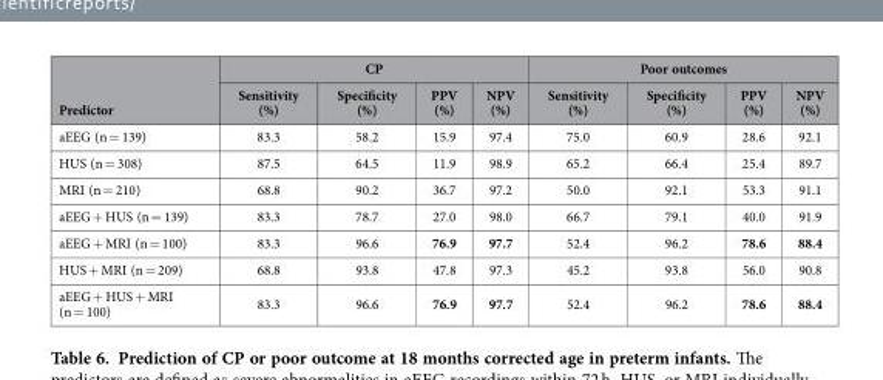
<table><thead><tr><td rowspan="2">Predictor</td><td colspan="4">CP</td><td colspan="4">Poor outcomes</td></tr><tr><td>Sensitivity (%)</td><td>Specificity (%)</td><td>PPV (%)</td><td>NPV (%)</td><td>Sensitivity (%)</td><td>Specificity (%)</td><td>PPV (%)</td><td>NPV (%)</td></tr></thead><tbody><tr><td>aEEG (n = 139)</td><td>83.3</td><td>58.2</td><td>15.9</td><td>97.4</td><td>75.0</td><td>60.9</td><td>28.6</td><td>92.1</td></tr><tr><td>HUS (n = 308)</td><td>87.5</td><td>64.5</td><td>11.9</td><td>98.9</td><td>65.2</td><td>66.4</td><td>25.4</td><td>89.7</td></tr><tr><td>MRI (n = 210)</td><td>68.8</td><td>90.2</td><td>36.7</td><td>97.2</td><td>50.0</td><td>92.1</td><td>53.3</td><td>91.1</td></tr><tr><td>aEEG + HUS (n = 139)</td><td>83.3</td><td>78.7</td><td>27.0</td><td>98.0</td><td>66.7</td><td>79.1</td><td>40.0</td><td>91.9</td></tr><tr><td>aEEG + MRI (n = 100)</td><td>83.3</td><td>96.6</td><td>76.9</td><td>97.7</td><td>52.4</td><td>96.2</td><td>78.6</td><td>88.4</td></tr><tr><td>HUS + MRI (n = 209)</td><td>68.8</td><td>93.8</td><td>47.8</td><td>97.3</td><td>45.2</td><td>93.8</td><td>56.0</td><td>90.8</td></tr><tr><td>aEEG + HUS + MRI (n = 100)</td><td>83.3</td><td>96.6</td><td>76.9</td><td>97.7</td><td>52.4</td><td>96.2</td><td>78.6</td><td>88.4</td></tr></tbody></table>